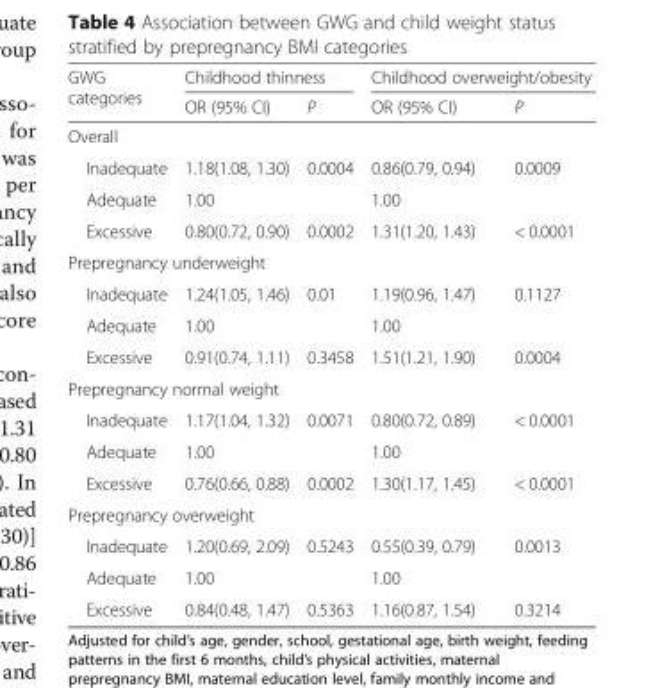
<table><thead><tr><td rowspan="2">GWG categories</td><td colspan="2">Childhood thinness</td><td colspan="2">Childhood overweight/obesity</td></tr><tr><td>OR (95% CI)</td><td>P</td><td>OR (95% CI)</td><td>P</td></tr></thead><tbody><tr><td colspan="5">Overall</td></tr><tr><td>Inadequate</td><td>1.18(1.08, 1.30)</td><td>0.0004</td><td>0.86(0.79, 0.94)</td><td>0.0009</td></tr><tr><td>Adequate</td><td>1.00</td><td></td><td>1.00</td><td></td></tr><tr><td>Excessive</td><td>0.80(0.72, 0.90)</td><td>0.0002</td><td>1.31(1.20, 1.43)</td><td>&lt; 0.0001</td></tr><tr><td colspan="5">Prepregnancy underweight</td></tr><tr><td>Inadequate</td><td>1.24(1.05, 1.46)</td><td>0.01</td><td>1.19(0.96, 1.47)</td><td>0.1127</td></tr><tr><td>Adequate</td><td>1.00</td><td></td><td>1.00</td><td></td></tr><tr><td>Excessive</td><td>0.91(0.74, 1.11)</td><td>0.3458</td><td>1.51(1.21, 1.90)</td><td>0.0004</td></tr><tr><td colspan="5">Prepregnancy normal weight</td></tr><tr><td>Inadequate</td><td>1.17(1.04, 1.32)</td><td>0.0071</td><td>0.80(0.72, 0.89)</td><td>&lt; 0.0001</td></tr><tr><td>Adequate</td><td>1.00</td><td></td><td>1.00</td><td></td></tr><tr><td>Excessive</td><td>0.76(0.66, 0.88)</td><td>0.0002</td><td>1.30(1.17, 1.45)</td><td>&lt; 0.0001</td></tr><tr><td colspan="5">Prepregnancy overweight</td></tr><tr><td>Inadequate</td><td>1.20(0.69, 2.09)</td><td>0.5243</td><td>0.55(0.39, 0.79)</td><td>0.0013</td></tr><tr><td>Adequate</td><td>1.00</td><td></td><td>1.00</td><td></td></tr><tr><td>Excessive</td><td>0.84(0.48, 1.47)</td><td>0.5363</td><td>1.16(0.87, 1.54)</td><td>0.3214</td></tr></tbody></table>